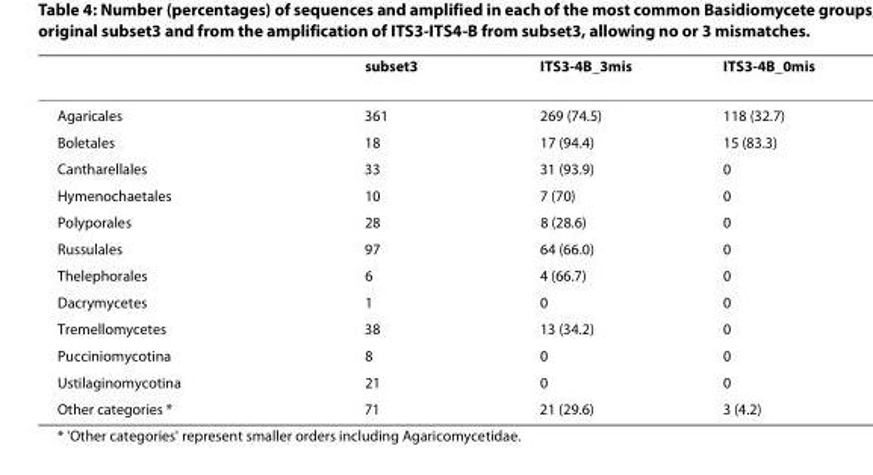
<table><thead><tr><td></td><td>subset3</td><td>ITS3-4B_3mis</td><td>ITS3-4B_0mis</td></tr></thead><tbody><tr><td>Agaricales</td><td>361</td><td>269 (74.5)</td><td>118 (32.7)</td></tr><tr><td>Boletales</td><td>18</td><td>17 (94.4)</td><td>15 (83.3)</td></tr><tr><td>Cantharellales</td><td>33</td><td>31 (93.9)</td><td>0</td></tr><tr><td>Hymenochaetales</td><td>10</td><td>7 (70)</td><td>0</td></tr><tr><td>Polyporales</td><td>28</td><td>8 (28.6)</td><td>0</td></tr><tr><td>Russulales</td><td>97</td><td>64 (66.0)</td><td>0</td></tr><tr><td>Thelephorales</td><td>6</td><td>4 (66.7)</td><td>0</td></tr><tr><td>Dacrymycetes</td><td>1</td><td>0</td><td>0</td></tr><tr><td>Tremellomycetes</td><td>38</td><td>13 (34.2)</td><td>0</td></tr><tr><td>Pucciniomycotina</td><td>8</td><td>0</td><td>0</td></tr><tr><td>Ustilaginomycotina</td><td>21</td><td>0</td><td>0</td></tr><tr><td>Other categories *</td><td>71</td><td>21 (29.6)</td><td>3 (4.2)</td></tr></tbody></table>